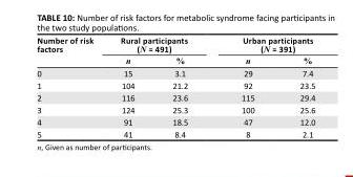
<table><thead><tr><td rowspan="2">Number of risk factors</td><td colspan="2">Rural participants (N = 491)</td><td colspan="2">Urban participants (N = 391)</td></tr><tr><td>n</td><td>%</td><td>n</td><td>%</td></tr></thead><tbody><tr><td>0</td><td>15</td><td>3.1</td><td>29</td><td>7.4</td></tr><tr><td>1</td><td>104</td><td>21.2</td><td>92</td><td>23.5</td></tr><tr><td>2</td><td>116</td><td>23.6</td><td>115</td><td>29.4</td></tr><tr><td>3</td><td>124</td><td>25.3</td><td>100</td><td>25.6</td></tr><tr><td>4</td><td>91</td><td>18.5</td><td>47</td><td>12.0</td></tr><tr><td>5</td><td>41</td><td>8.4</td><td>8</td><td>2.1</td></tr></tbody></table>